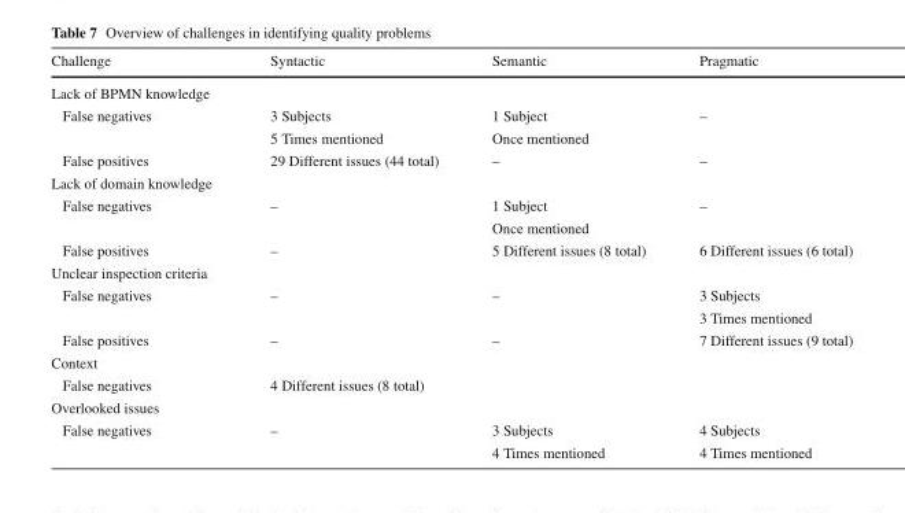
<table><thead><tr><td>Challenge</td><td>Syntactic</td><td>Semantic</td><td>Pragmatic</td></tr></thead><tbody><tr><td colspan="4">Lack of BPMN knowledge</td></tr><tr><td rowspan="2">False negatives</td><td>3 Subjects</td><td>1 Subject</td><td>–</td></tr><tr><td>5 Times mentioned</td><td>Once mentioned</td><td></td></tr><tr><td>False positives</td><td>29 Different issues (44 total)</td><td>–</td><td>–</td></tr><tr><td colspan="4">Lack of domain knowledge</td></tr><tr><td rowspan="2">False negatives</td><td>–</td><td>1 Subject</td><td>–</td></tr><tr><td></td><td>Once mentioned</td><td></td></tr><tr><td>False positives</td><td>–</td><td>5 Different issues (8 total)</td><td>6 Different issues (6 total)</td></tr><tr><td colspan="4">Unclear inspection criteria</td></tr><tr><td rowspan="2">False negatives</td><td>–</td><td>–</td><td>3 Subjects</td></tr><tr><td></td><td></td><td>3 Times mentioned</td></tr><tr><td>False positives</td><td>–</td><td>–</td><td>7 Different issues (9 total)</td></tr><tr><td colspan="4">Context</td></tr><tr><td>False negatives</td><td colspan="3">4 Different issues (8 total)</td></tr><tr><td colspan="4">Overlooked issues</td></tr><tr><td rowspan="2">False negatives</td><td>–</td><td>3 Subjects</td><td>4 Subjects</td></tr><tr><td></td><td>4 Times mentioned</td><td>4 Times mentioned</td></tr></tbody></table>